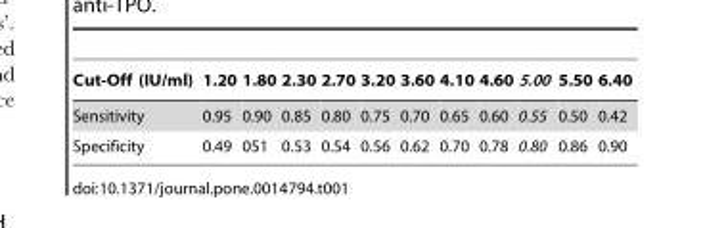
<table><thead><tr><td>Cut-Off (IU/ml)</td><td>1.20</td><td>1.80</td><td>2.30</td><td>2.70</td><td>3.20</td><td>3.60</td><td>4.10</td><td>4.60</td><td>5.00</td><td>5.50</td><td>6.40</td></tr></thead><tbody><tr><td>Sensitivity</td><td>0.95</td><td>0.90</td><td>0.85</td><td>0.80</td><td>0.75</td><td>0.70</td><td>0.65</td><td>0.60</td><td>0.55</td><td>0.50</td><td>0.42</td></tr><tr><td>Specificity</td><td>0.49</td><td>051</td><td>0.53</td><td>0.54</td><td>0.56</td><td>0.62</td><td>0.70</td><td>0.78</td><td>0.80</td><td>0.86</td><td>0.90</td></tr></tbody></table>